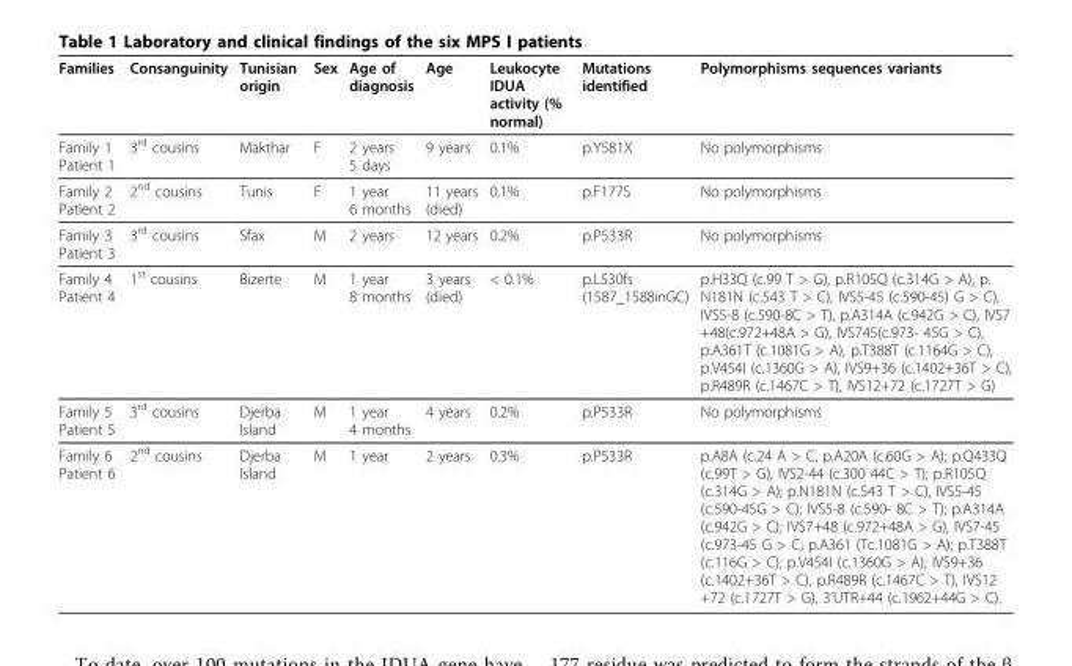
<table><thead><tr><td>Families</td><td>Consanguinity</td><td>Tunisian origin</td><td>Sex</td><td>Age of diagnosis</td><td>Age</td><td>Leukocyte IDUA activity (% normal)</td><td>Mutations identified</td><td>Polymorphisms sequences variants</td></tr></thead><tbody><tr><td>Family 1 Patient 1</td><td>3<sup>rd</sup> cousins</td><td>Makthar</td><td>F</td><td>2 years 5 days</td><td>9 years</td><td>0.1%</td><td>p.Y581X</td><td>No polymorphisms</td></tr><tr><td>Family 2 Patient 2</td><td>2<sup>nd</sup> cousins</td><td>Tunis</td><td>F</td><td>1 year 6 months</td><td>11 years (died)</td><td>0.1%</td><td>p.F177S</td><td>No polymorphisms</td></tr><tr><td>Family 3 Patient 3</td><td>3<sup>rd</sup> cousins</td><td>Sfax</td><td>M</td><td>2 years</td><td>12 years</td><td>0.2%</td><td>p.P533R</td><td>No polymorphisms</td></tr><tr><td>Family 4 Patient 4</td><td>1<sup>st</sup> cousins</td><td>Bizerte</td><td>M</td><td>1 year 8 months</td><td>3 years (died)</td><td>&lt; 0.1%</td><td>p.L530fs (1587_1588inGC)</td><td>p.H33Q (c.99 T &gt; G), p.R105Q (c.314G &gt; A), p. N181N (c.543 T &gt; C), IVS5-45 (c.590-45) G &gt; C), IVS5-8 (c.590-8C &gt; T), p.A314A (c.942G &gt; C), IVS7 +48(c.972+48A &gt; G), IVS745(c.973- 45G &gt; C), p.A361T (c.1081G &gt; A), p.T388T (c.1164G &gt; C), p.V454I (c.1360G &gt; A), IVS9+36 (c.1402+36T &gt; C), p.R489R (c.1467C &gt; T), IVS12+72 (c.1727T &gt; G)</td></tr><tr><td>Family 5 Patient 5</td><td>3<sup>rd</sup> cousins</td><td>Djerba Island</td><td>M</td><td>1 year 4 months</td><td>4 years</td><td>0.2%</td><td>p.P533R</td><td>No polymorphisms</td></tr><tr><td>Family 6 Patient 6</td><td>2<sup>nd</sup> cousins</td><td>Djerba Island</td><td>M</td><td>1 year</td><td>2 years</td><td>0.3%</td><td>p.P533R</td><td>p.A8A (c.24 A &gt; C, p.A20A (c.60G &gt; A); p.Q433Q (c.99T &gt; G), IVS2-44 (c.300 44C &gt; T); p.R105Q (c.314G &gt; A); p.N181N (c.543 T &gt; C), IVS5-45 (c.590-45G &gt; C); IVS5-8 (c.590- 8C &gt; T); p.A314A (c.942G &gt; C); IVS7+48 (c.972+48A &gt; G), IVS7-45 (c.973-45 G &gt; C; p.A361 (Tc.1081G &gt; A); p.T388T (c.116G &gt; C); p.V454I (c.1360G &gt; A); IVS9+36 (c.1402+36T &gt; C), p.R489R (c.1467C &gt; T), IVS12 +72 (c.1727T &gt; G), 3’UTR+44 (c.1962+44G &gt; C).</td></tr></tbody></table>